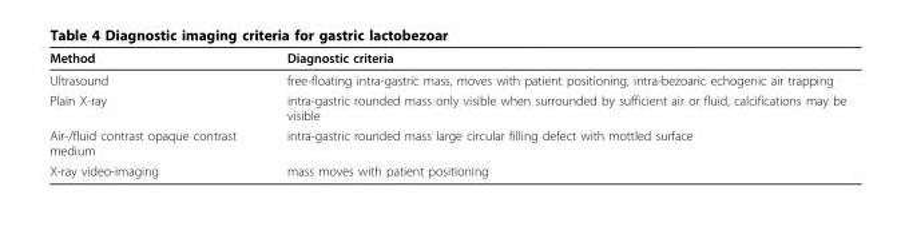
<table><thead><tr><td>Method</td><td>Diagnostic criteria</td></tr></thead><tbody><tr><td>Ultrasound</td><td>free-floating intra-gastric mass, moves with patient positioning, intra-bezoaric echogenic air trapping</td></tr><tr><td>Plain X-ray</td><td>intra-gastric rounded mass only visible when surrounded by sufficient air or fluid, calcifications may be visible</td></tr><tr><td>Air-/fluid contrast opaque contrast medium</td><td>intra-gastric rounded mass large circular filling defect with mottled surface</td></tr><tr><td>X-ray video-imaging</td><td>mass moves with patient positioning</td></tr></tbody></table>